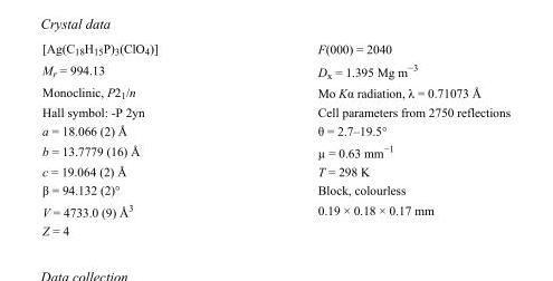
<table><tbody><tr><td>[Ag(C<sub>18</sub>H<sub>15</sub>P)<sub>3</sub>(ClO<sub>4</sub>)]</td><td>F(000) = 2040</td></tr><tr><td>M<sub>r</sub> = 994.13</td><td>D<sub>x</sub> = 1.395 Mg m<sup>−3</sup></td></tr><tr><td>Monoclinic, P2<sub>1</sub>/n</td><td>Mo Kα radiation, λ = 0.71073 Å</td></tr><tr><td>Hall symbol: -P 2yn</td><td>Cell parameters from 2750 reflections</td></tr><tr><td>a = 18.066 (2) Å</td><td>θ = 2.7–19.5°</td></tr><tr><td>b = 13.7779 (16) Å</td><td>µ = 0.63 mm<sup>−1</sup></td></tr><tr><td>c = 19.064 (2) Å</td><td>T = 298 K</td></tr><tr><td>β = 94.132 (2)°</td><td>Block, colourless</td></tr><tr><td>V = 4733.0 (9) Å<sup>3</sup></td><td>0.19 × 0.18 × 0.17 mm</td></tr><tr><td>Z = 4</td><td></td></tr></tbody></table>